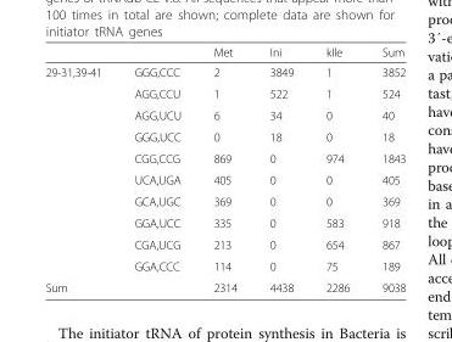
<table><thead><tr><td></td><td></td><td>Met</td><td>Ini</td><td>kIle</td><td>Sum</td></tr></thead><tbody><tr><td rowspan="10">29-31,39-41</td><td>GGG,CCC</td><td>2</td><td>3849</td><td>1</td><td>3852</td></tr><tr><td>AGG,CCU</td><td>1</td><td>522</td><td>1</td><td>524</td></tr><tr><td>AGG,UCU</td><td>6</td><td>34</td><td>0</td><td>40</td></tr><tr><td>GGG,UCC</td><td>0</td><td>18</td><td>0</td><td>18</td></tr><tr><td>CGG,CCG</td><td>869</td><td>0</td><td>974</td><td>1843</td></tr><tr><td>UCA,UGA</td><td>405</td><td>0</td><td>0</td><td>405</td></tr><tr><td>GCA,UGC</td><td>369</td><td>0</td><td>0</td><td>369</td></tr><tr><td>GGA,UCC</td><td>335</td><td>0</td><td>583</td><td>918</td></tr><tr><td>CGA,UCG</td><td>213</td><td>0</td><td>654</td><td>867</td></tr><tr><td>GGA,CCC</td><td>114</td><td>0</td><td>75</td><td>189</td></tr><tr><td>Sum</td><td></td><td>2314</td><td>4438</td><td>2286</td><td>9038</td></tr></tbody></table>